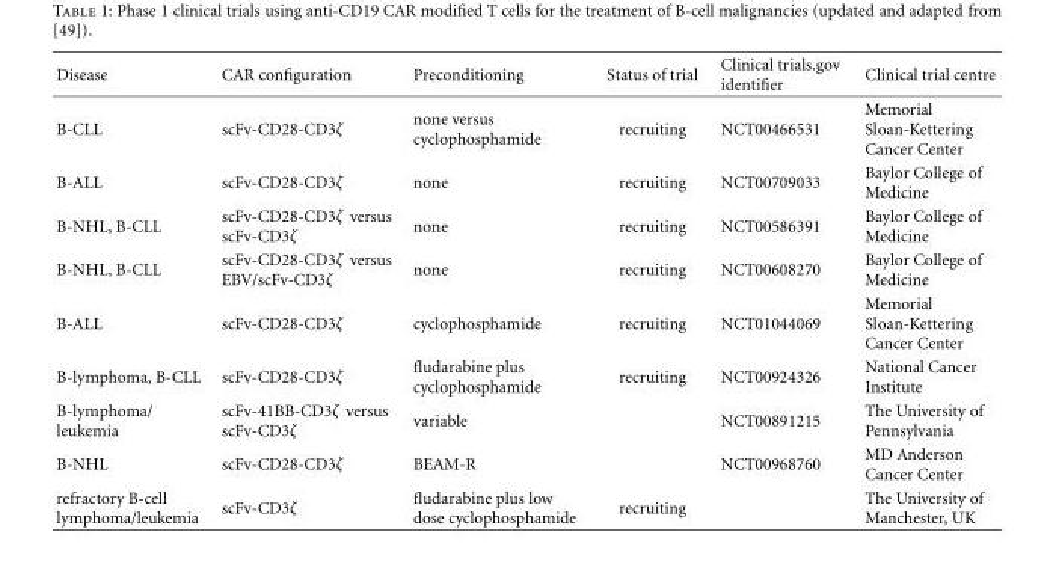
<table><thead><tr><td>Disease</td><td>CAR configuration</td><td>Preconditioning</td><td>Status of trial</td><td>Clinical trials.gov identifier</td><td>Clinical trial centre</td></tr></thead><tbody><tr><td>B-CLL</td><td>scFv-CD28-CD3ζ</td><td>none versus cyclophosphamide</td><td>recruiting</td><td>NCT00466531</td><td>Memorial Sloan-Kettering Cancer Center</td></tr><tr><td>B-ALL</td><td>scFv-CD28-CD3ζ</td><td>none</td><td>recruiting</td><td>NCT00709033</td><td>Baylor College of Medicine</td></tr><tr><td>B-NHL, B-CLL</td><td>scFv-CD28-CD3ζ versus scFv-CD3ζ</td><td>none</td><td>recruiting</td><td>NCT00586391</td><td>Baylor College of Medicine</td></tr><tr><td>B-NHL, B-CLL</td><td>scFv-CD28-CD3ζ versus EBV/scFv-CD3ζ</td><td>none</td><td>recruiting</td><td>NCT00608270</td><td>Baylor College of Medicine</td></tr><tr><td>B-ALL</td><td>scFv-CD28-CD3ζ</td><td>cyclophosphamide</td><td>recruiting</td><td>NCT01044069</td><td>Memorial Sloan-Kettering Cancer Center</td></tr><tr><td>B-lymphoma, B-CLL</td><td>scFv-CD28-CD3ζ</td><td>fludarabine plus cyclophosphamide</td><td>recruiting</td><td>NCT00924326</td><td>National Cancer Institute</td></tr><tr><td>B-lymphoma/ leukemia</td><td>scFv-41BB-CD3ζ versus scFv-CD3ζ</td><td>variable</td><td></td><td>NCT00891215</td><td>The University of Pennsylvania</td></tr><tr><td>B-NHL</td><td>scFv-CD28-CD3ζ</td><td>BEAM-R</td><td></td><td>NCT00968760</td><td>MD Anderson Cancer Center</td></tr><tr><td>refractory B-cell lymphoma/leukemia</td><td>scFv-CD3ζ</td><td>fludarabine plus low dose cyclophosphamide</td><td>recruiting</td><td></td><td>The University of Manchester, UK</td></tr></tbody></table>